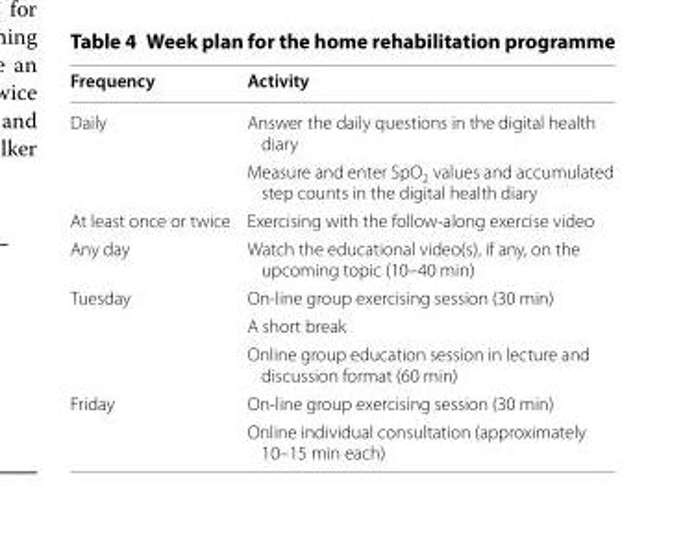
<table><thead><tr><td>Frequency</td><td>Activity</td></tr></thead><tbody><tr><td rowspan="2">Daily</td><td>Answer the daily questions in the digital health diary</td></tr><tr><td>Measure and enter SpO<sub>2</sub> values and accumulated step counts in the digital health diary</td></tr><tr><td>At least once or twice</td><td>Exercising with the follow-along exercise video</td></tr><tr><td>Any day</td><td>Watch the educational video(s), if any, on the upcoming topic (10–40 min)</td></tr><tr><td rowspan="3">Tuesday</td><td>On-line group exercising session (30 min)</td></tr><tr><td>A short break</td></tr><tr><td>Online group education session in lecture and discussion format (60 min)</td></tr><tr><td rowspan="2">Friday</td><td>On-line group exercising session (30 min)</td></tr><tr><td>Online individual consultation (approximately 10–15 min each)</td></tr></tbody></table>